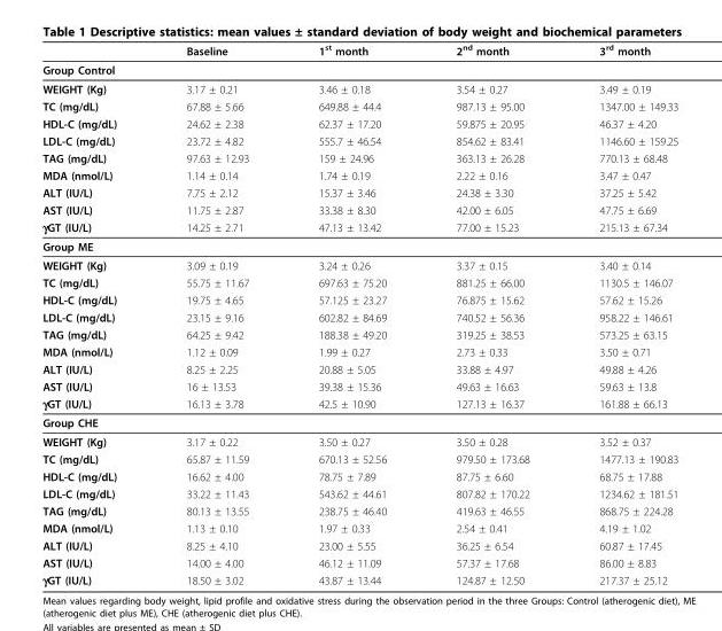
<table><thead><tr><td></td><td>Baseline</td><td>1<sup>st</sup> month</td><td>2<sup>nd</sup> month</td><td>3<sup>rd</sup> month</td></tr></thead><tbody><tr><td colspan="5">Group Control</td></tr><tr><td>WEIGHT (Kg)</td><td>3.17 ± 0.21</td><td>3.46 ± 0.18</td><td>3.54 ± 0.27</td><td>3.49 ± 0.19</td></tr><tr><td>TC (mg/dL)</td><td>67.88 ± 5.66</td><td>649.88 ± 44.4</td><td>987.13 ± 95.00</td><td>1347.00 ± 149.33</td></tr><tr><td>HDL-C (mg/dL)</td><td>24.62 ± 2.38</td><td>62.37 ± 17.20</td><td>59.875 ± 20.95</td><td>46.37 ± 4.20</td></tr><tr><td>LDL-C (mg/dL)</td><td>23.72 ± 4.82</td><td>555.7 ± 46.54</td><td>854.62 ± 83.41</td><td>1146.60 ± 159.25</td></tr><tr><td>TAG (mg/dL)</td><td>97.63 ± 12.93</td><td>159 ± 24.96</td><td>363.13 ± 26.28</td><td>770.13 ± 68.48</td></tr><tr><td>MDA (nmol/L)</td><td>1.14 ± 0.14</td><td>1.74 ± 0.19</td><td>2.22 ± 0.16</td><td>3.47 ± 0.47</td></tr><tr><td>ALT (IU/L)</td><td>7.75 ± 2.12</td><td>15.37 ± 3.46</td><td>24.38 ± 3.30</td><td>37.25 ± 5.42</td></tr><tr><td>AST (IU/L)</td><td>11.75 ± 2.87</td><td>33.38 ± 8.30</td><td>42.00 ± 6.05</td><td>47.75 ± 6.69</td></tr><tr><td>γGT (IU/L)</td><td>14.25 ± 2.71</td><td>47.13 ± 13.42</td><td>77.00 ± 15.23</td><td>215.13 ± 67.34</td></tr><tr><td colspan="5">Group ME</td></tr><tr><td>WEIGHT (Kg)</td><td>3.09 ± 0.19</td><td>3.24 ± 0.26</td><td>3.37 ± 0.15</td><td>3.40 ± 0.14</td></tr><tr><td>TC (mg/dL)</td><td>55.75 ± 11.67</td><td>697.63 ± 75.20</td><td>881.25 ± 66.00</td><td>1130.5 ± 146.07</td></tr><tr><td>HDL-C (mg/dL)</td><td>19.75 ± 4.65</td><td>57.125 ± 23.27</td><td>76.875 ± 15.62</td><td>57.62 ± 15.26</td></tr><tr><td>LDL-C (mg/dL)</td><td>23.15 ± 9.16</td><td>602.82 ± 84.69</td><td>740.52 ± 56.36</td><td>958.22 ± 146.61</td></tr><tr><td>TAG (mg/dL)</td><td>64.25 ± 9.42</td><td>188.38 ± 49.20</td><td>319.25 ± 38.53</td><td>573.25 ± 63.15</td></tr><tr><td>MDA (nmol/L)</td><td>1.12 ± 0.09</td><td>1.99 ± 0.27</td><td>2.73 ± 0.33</td><td>3.50 ± 0.71</td></tr><tr><td>ALT (IU/L)</td><td>8.25 ± 2.25</td><td>20.88 ± 5.05</td><td>33.88 ± 4.97</td><td>49.88 ± 4.26</td></tr><tr><td>AST (IU/L)</td><td>16 ± 13.53</td><td>39.38 ± 15.36</td><td>49.63 ± 16.63</td><td>59.63 ± 13.8</td></tr><tr><td>γGT (IU/L)</td><td>16.13 ± 3.78</td><td>42.5 ± 10.90</td><td>127.13 ± 16.37</td><td>161.88 ± 66.13</td></tr><tr><td colspan="5">Group CHE</td></tr><tr><td>WEIGHT (Kg)</td><td>3.17 ± 0.22</td><td>3.50 ± 0.27</td><td>3.50 ± 0.28</td><td>3.52 ± 0.37</td></tr><tr><td>TC (mg/dL)</td><td>65.87 ± 11.59</td><td>670.13 ± 52.56</td><td>979.50 ± 173.68</td><td>1477.13 ± 190.83</td></tr><tr><td>HDL-C (mg/dL)</td><td>16.62 ± 4.00</td><td>78.75 ± 7.89</td><td>87.75 ± 6.60</td><td>68.75 ± 17.88</td></tr><tr><td>LDL-C (mg/dL)</td><td>33.22 ± 11.43</td><td>543.62 ± 44.61</td><td>807.82 ± 170.22</td><td>1234.62 ± 181.51</td></tr><tr><td>TAG (mg/dL)</td><td>80.13 ± 13.55</td><td>238.75 ± 46.40</td><td>419.63 ± 46.55</td><td>868.75 ± 224.28</td></tr><tr><td>MDA (nmol/L)</td><td>1.13 ± 0.10</td><td>1.97 ± 0.33</td><td>2.54 ± 0.41</td><td>4.19 ± 1.02</td></tr><tr><td>ALT (IU/L)</td><td>8.25 ± 4.10</td><td>23.00 ± 5.55</td><td>36.25 ± 6.54</td><td>60.87 ± 17.45</td></tr><tr><td>AST (IU/L)</td><td>14.00 ± 4.00</td><td>46.12 ± 11.09</td><td>57.37 ± 17.68</td><td>86.00 ± 8.83</td></tr><tr><td>γGT (IU/L)</td><td>18.50 ± 3.02</td><td>43.87 ± 13.44</td><td>124.87 ± 12.50</td><td>217.37 ± 25.12</td></tr></tbody></table>